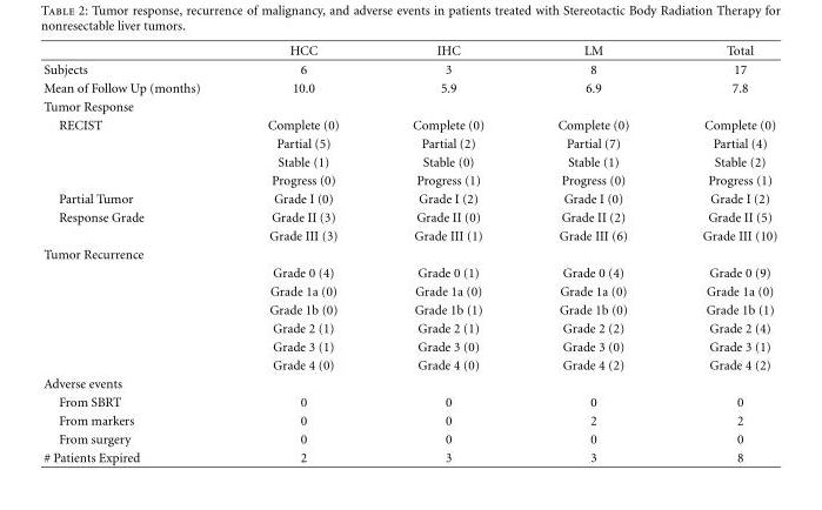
<table><thead><tr><td></td><td>HCC</td><td>IHC</td><td>LM</td><td>Total</td></tr></thead><tbody><tr><td>Subjects</td><td>6</td><td>3</td><td>8</td><td>17</td></tr><tr><td>Mean of Follow Up (months)</td><td>10.0</td><td>5.9</td><td>6.9</td><td>7.8</td></tr><tr><td colspan="5">Tumor Response</td></tr><tr><td rowspan="4">RECIST</td><td>Complete (0)</td><td>Complete (0)</td><td>Complete (0)</td><td>Complete (0)</td></tr><tr><td>Partial (5)</td><td>Partial (2)</td><td>Partial (7)</td><td>Partial (4)</td></tr><tr><td>Stable (1)</td><td>Stable (0)</td><td>Stable (1)</td><td>Stable (2)</td></tr><tr><td>Progress (0)</td><td>Progress (1)</td><td>Progress (0)</td><td>Progress (1)</td></tr><tr><td>Partial Tumor</td><td>Grade I (0)</td><td>Grade I (2)</td><td>Grade I (0)</td><td>Grade I (2)</td></tr><tr><td rowspan="2">Response Grade</td><td>Grade II (3)</td><td>Grade II (0)</td><td>Grade II (2)</td><td>Grade II (5)</td></tr><tr><td>Grade III (3)</td><td>Grade III (1)</td><td>Grade III (6)</td><td>Grade III (10)</td></tr><tr><td colspan="5">Tumor Recurrence</td></tr><tr><td></td><td>Grade 0 (4)</td><td>Grade 0 (1)</td><td>Grade 0 (4)</td><td>Grade 0 (9)</td></tr><tr><td></td><td>Grade 1a (0)</td><td>Grade 1a (0)</td><td>Grade 1a (0)</td><td>Grade 1a (0)</td></tr><tr><td></td><td>Grade 1b (0)</td><td>Grade 1b (1)</td><td>Grade 1b (0)</td><td>Grade 1b (1)</td></tr><tr><td></td><td>Grade 2 (1)</td><td>Grade 2 (1)</td><td>Grade 2 (2)</td><td>Grade 2 (4)</td></tr><tr><td></td><td>Grade 3 (1)</td><td>Grade 3 (0)</td><td>Grade 3 (0)</td><td>Grade 3 (1)</td></tr><tr><td></td><td>Grade 4 (0)</td><td>Grade 4 (0)</td><td>Grade 4 (2)</td><td>Grade 4 (2)</td></tr><tr><td colspan="5">Adverse events</td></tr><tr><td>From SBRT</td><td>0</td><td>0</td><td>0</td><td>0</td></tr><tr><td>From markers</td><td>0</td><td>0</td><td>2</td><td>2</td></tr><tr><td>From surgery</td><td>0</td><td>0</td><td>0</td><td>0</td></tr><tr><td># Patients Expired</td><td>2</td><td>3</td><td>3</td><td>8</td></tr></tbody></table>